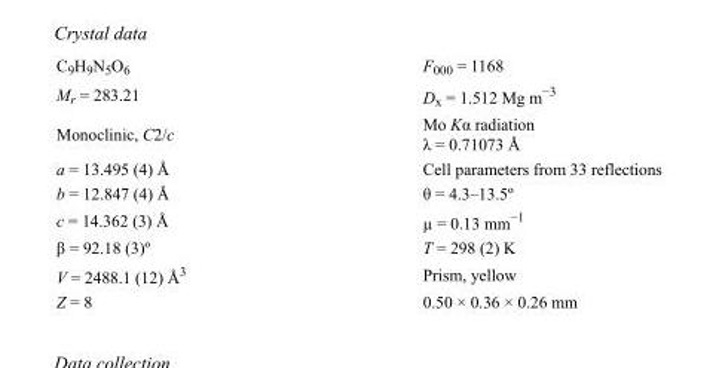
<table><tbody><tr><td>C<sub>9</sub>H<sub>9</sub>N<sub>5</sub>O<sub>6</sub></td><td>F000 = 1168</td></tr><tr><td>M<sub>r</sub> = 283.21</td><td>D<sub>x</sub> = 1.512 Mg m<sup>−3</sup></td></tr><tr><td>Monoclinic, C2/c</td><td>Mo Kα radiation λ = 0.71073 Å</td></tr><tr><td>a = 13.495 (4) Å</td><td>Cell parameters from 33 reflections</td></tr><tr><td>b = 12.847 (4) Å</td><td>θ = 4.3–13.5º</td></tr><tr><td>c = 14.362 (3) Å</td><td>µ = 0.13 mm<sup>−1</sup></td></tr><tr><td>β = 92.18 (3)º</td><td>T = 298 (2) K</td></tr><tr><td>V = 2488.1 (12) Å<sup>3</sup></td><td>Prism, yellow</td></tr><tr><td>Z = 8</td><td>0.50 × 0.36 × 0.26 mm</td></tr></tbody></table>